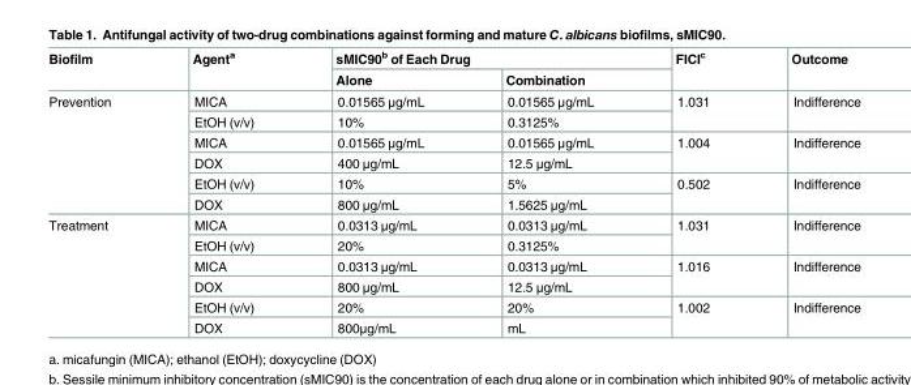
<table><thead><tr><td rowspan="2">Biofilm</td><td rowspan="2">Agent<sup>a</sup></td><td colspan="2">sMIC90<sup>b</sup> of Each Drug</td><td rowspan="2">FICI<sup>c</sup></td><td rowspan="2">Outcome</td></tr><tr><td>Alone</td><td>Combination</td></tr></thead><tbody><tr><td rowspan="6">Prevention</td><td>MICA</td><td>0.01565 μg/mL</td><td>0.01565 μg/mL</td><td rowspan="2">1.031</td><td rowspan="2">Indifference</td></tr><tr><td>EtOH (v/v)</td><td>10%</td><td>0.3125%</td></tr><tr><td>MICA</td><td>0.01565 μg/mL</td><td>0.01565 μg/mL</td><td rowspan="2">1.004</td><td rowspan="2">Indifference</td></tr><tr><td>DOX</td><td>400 μg/mL</td><td>12.5 μg/mL</td></tr><tr><td>EtOH (v/v)</td><td>10%</td><td>5%</td><td rowspan="2">0.502</td><td rowspan="2">Indifference</td></tr><tr><td>DOX</td><td>800 μg/mL</td><td>1.5625 μg/mL</td></tr><tr><td rowspan="6">Treatment</td><td>MICA</td><td>0.0313 μg/mL</td><td>0.0313 μg/mL</td><td rowspan="2">1.031</td><td rowspan="2">Indifference</td></tr><tr><td>EtOH (v/v)</td><td>20%</td><td>0.3125%</td></tr><tr><td>MICA</td><td>0.0313 μg/mL</td><td>0.0313 μg/mL</td><td rowspan="2">1.016</td><td rowspan="2">Indifference</td></tr><tr><td>DOX</td><td>800 μg/mL</td><td>12.5 μg/mL</td></tr><tr><td>EtOH (v/v)</td><td>20%</td><td>20%</td><td rowspan="2">1.002</td><td rowspan="2">Indifference</td></tr><tr><td>DOX</td><td>800μg/mL</td><td>mL</td></tr></tbody></table>